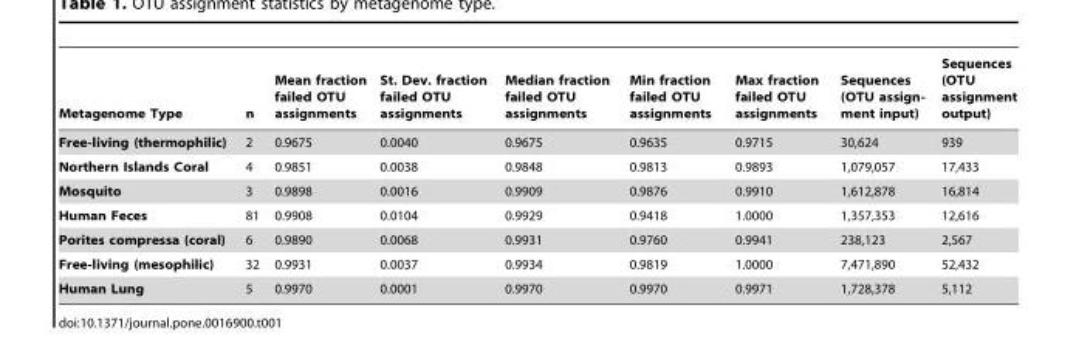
<table><thead><tr><td>Metagenome Type</td><td>n</td><td>Mean fraction failed OTU assignments</td><td>St. Dev. fraction failed OTU assignments</td><td>Median fraction failed OTU assignments</td><td>Min fraction failed OTU assignments</td><td>Max fraction failed OTU assignments</td><td>Sequences (OTU assign- ment input)</td><td>Sequences (OTU assignment output)</td></tr></thead><tbody><tr><td>Free-living (thermophilic)</td><td>2</td><td>0.9675</td><td>0.0040</td><td>0.9675</td><td>0.9635</td><td>0.9715</td><td>30,624</td><td>939</td></tr><tr><td>Northern Islands Coral</td><td>4</td><td>0.9851</td><td>0.0038</td><td>0.9848</td><td>0.9813</td><td>0.9893</td><td>1,079,057</td><td>17,433</td></tr><tr><td>Mosquito</td><td>3</td><td>0.9898</td><td>0.0016</td><td>0.9909</td><td>0.9876</td><td>0.9910</td><td>1,612,878</td><td>16,814</td></tr><tr><td>Human Feces</td><td>81</td><td>0.9908</td><td>0.0104</td><td>0.9929</td><td>0.9418</td><td>1.0000</td><td>1,357,353</td><td>12,616</td></tr><tr><td>Porites compressa (coral)</td><td>6</td><td>0.9890</td><td>0.0068</td><td>0.9931</td><td>0.9760</td><td>0.9941</td><td>238,123</td><td>2,567</td></tr><tr><td>Free-living (mesophilic)</td><td>32</td><td>0.9931</td><td>0.0037</td><td>0.9934</td><td>0.9819</td><td>1.0000</td><td>7,471,890</td><td>52,432</td></tr><tr><td>Human Lung</td><td>5</td><td>0.9970</td><td>0.0001</td><td>0.9970</td><td>0.9970</td><td>0.9971</td><td>1,728,378</td><td>5,112</td></tr></tbody></table>